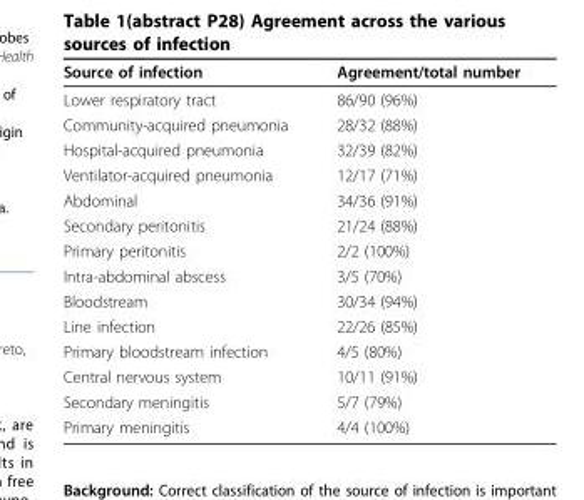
<table><thead><tr><td>Source of infection</td><td>Agreement/total number</td></tr></thead><tbody><tr><td>Lower respiratory tract</td><td>86/90 (96%)</td></tr><tr><td>Community-acquired pneumonia</td><td>28/32 (88%)</td></tr><tr><td>Hospital-acquired pneumonia</td><td>32/39 (82%)</td></tr><tr><td>Ventilator-acquired pneumonia</td><td>12/17 (71%)</td></tr><tr><td>Abdominal</td><td>34/36 (91%)</td></tr><tr><td>Secondary peritonitis</td><td>21/24 (88%)</td></tr><tr><td>Primary peritonitis</td><td>2/2 (100%)</td></tr><tr><td>Intra-abdominal abscess</td><td>3/5 (70%)</td></tr><tr><td>Bloodstream</td><td>30/34 (94%)</td></tr><tr><td>Line infection</td><td>22/26 (85%)</td></tr><tr><td>Primary bloodstream infection</td><td>4/5 (80%)</td></tr><tr><td>Central nervous system</td><td>10/11 (91%)</td></tr><tr><td>Secondary meningitis</td><td>5/7 (79%)</td></tr><tr><td>Primary meningitis</td><td>4/4 (100%)</td></tr></tbody></table>